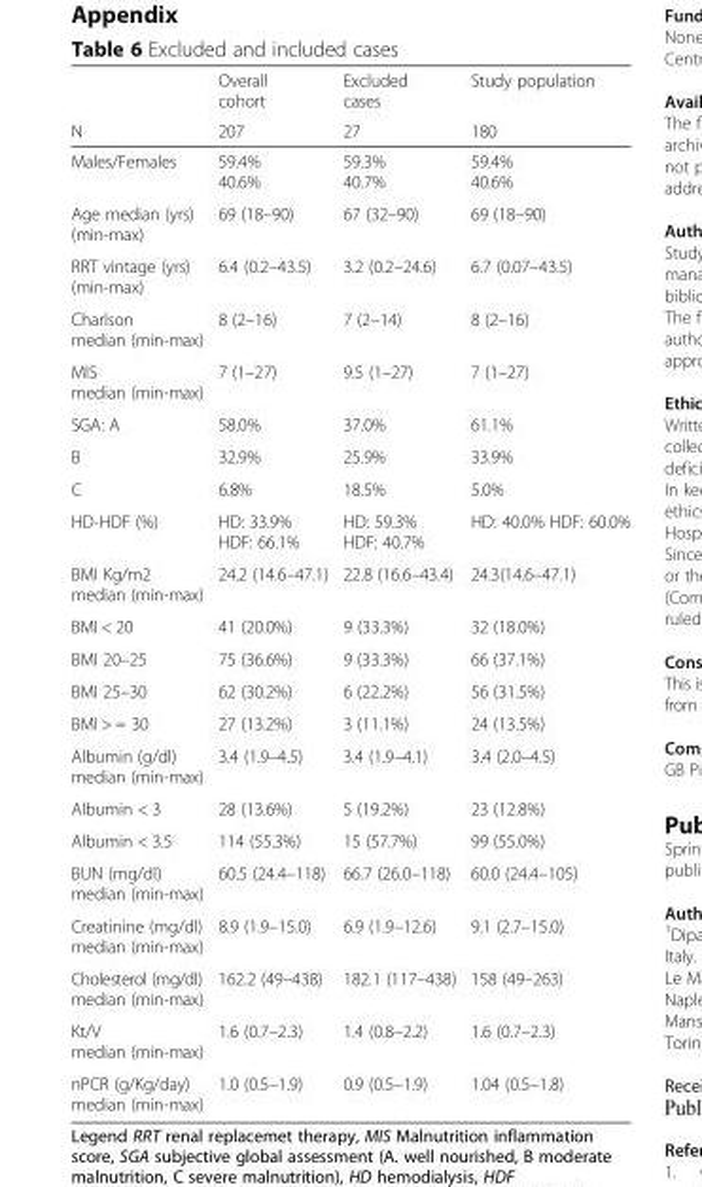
<table><thead><tr><td rowspan="2">N</td><td rowspan="2">Overall cohort 207</td><td rowspan="2">Excluded cases 27</td><td rowspan="2">Study population 180</td></tr><tr></tr></thead><tbody><tr><td>Males/Females</td><td>59.4% 40.6%</td><td>59.3% 40.7%</td><td>59.4% 40.6%</td></tr><tr><td>Age median (yrs) (min-max)</td><td>69 (18–90)</td><td>67 (32–90)</td><td>69 (18–90)</td></tr><tr><td>RRT vintage (yrs) (min-max)</td><td>6.4 (0.2–43.5)</td><td>3.2 (0.2–24.6)</td><td>6.7 (0.07–43.5)</td></tr><tr><td>Charlson median (min-max)</td><td>8 (2–16)</td><td>7 (2–14)</td><td>8 (2–16)</td></tr><tr><td>MIS median (min-max)</td><td>7 (1–27)</td><td>9.5 (1–27)</td><td>7 (1–27)</td></tr><tr><td>SGA: A</td><td>58.0%</td><td>37.0%</td><td>61.1%</td></tr><tr><td>B</td><td>32.9%</td><td>25.9%</td><td>33.9%</td></tr><tr><td>C</td><td>6.8%</td><td>18.5%</td><td>5.0%</td></tr><tr><td>HD-HDF (%)</td><td>HD: 33.9% HDF: 66.1%</td><td>HD: 59.3% HDF: 40.7%</td><td>HD: 40.0% HDF: 60.0%</td></tr><tr><td>BMI Kg/m2 median (min-max)</td><td>24.2 (14.6–47.1)</td><td>22.8 (16.6–43.4)</td><td>24.3(14.6–47.1)</td></tr><tr><td>BMI &lt; 20</td><td>41 (20.0%)</td><td>9 (33.3%)</td><td>32 (18.0%)</td></tr><tr><td>BMI 20–25</td><td>75 (36.6%)</td><td>9 (33.3%)</td><td>66 (37.1%)</td></tr><tr><td>BMI 25–30</td><td>62 (30.2%)</td><td>6 (22.2%)</td><td>56 (31.5%)</td></tr><tr><td>BMI &gt; = 30</td><td>27 (13.2%)</td><td>3 (11.1%)</td><td>24 (13.5%)</td></tr><tr><td>Albumin (g/dl) median (min-max)</td><td>3.4 (1.9–4.5)</td><td>3.4 (1.9–4.1)</td><td>3.4 (2.0–4.5)</td></tr><tr><td>Albumin &lt; 3</td><td>28 (13.6%)</td><td>5 (19.2%)</td><td>23 (12.8%)</td></tr><tr><td>Albumin &lt; 3.5</td><td>114 (55.3%)</td><td>15 (57.7%)</td><td>99 (55.0%)</td></tr><tr><td>BUN (mg/dl) median (min-max)</td><td>60.5 (24.4–118)</td><td>66.7 (26.0–118)</td><td>60.0 (24.4–105)</td></tr><tr><td>Creatinine (mg/dl) median (min-max)</td><td>8.9 (1.9–15.0)</td><td>6.9 (1.9–12.6)</td><td>9.1 (2.7–15.0)</td></tr><tr><td>Cholesterol (mg/dl) median (min-max)</td><td>162.2 (49–438)</td><td>182.1 (117–438)</td><td>158 (49–263)</td></tr><tr><td>Kt/V median (min-max)</td><td>1.6 (0.7–2.3)</td><td>1.4 (0.8–2.2)</td><td>1.6 (0.7–2.3)</td></tr><tr><td>nPCR (g/Kg/day) median (min-max)</td><td>1.0 (0.5–1.9)</td><td>0.9 (0.5–1.9)</td><td>1.04 (0.5–1.8)</td></tr></tbody></table>